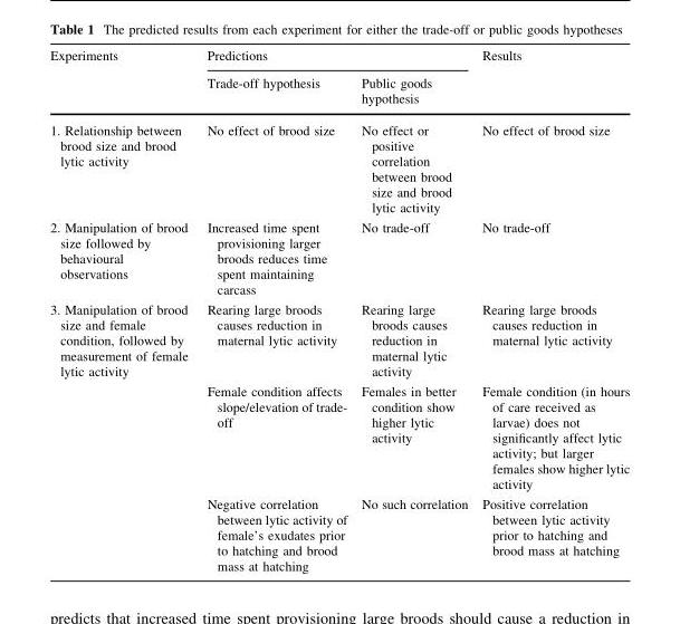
<table><thead><tr><td rowspan="2">Experiments</td><td colspan="2">Predictions</td><td rowspan="2">Results</td></tr><tr><td>Trade-off hypothesis</td><td>Public goods hypothesis</td></tr></thead><tbody><tr><td>1. Relationship between brood size and brood lytic activity</td><td>No effect of brood size</td><td>No effect or positive correlation between brood size and brood lytic activity</td><td>No effect of brood size</td></tr><tr><td>2. Manipulation of brood size followed by behavioural observations</td><td>Increased time spent provisioning larger broods reduces time spent maintaining carcass</td><td>No trade-off</td><td>No trade-off</td></tr><tr><td rowspan="3">3. Manipulation of brood size and female condition, followed by measurement of female lytic activity</td><td>Rearing large broods causes reduction in maternal lytic activity</td><td>Rearing large broods causes reduction in maternal lytic activity</td><td>Rearing large broods causes reduction in maternal lytic activity</td></tr><tr><td>Female condition affects slope/elevation of trade- off</td><td>Females in better condition show higher lytic activity</td><td>Female condition (in hours of care received as larvae) does not significantly affect lytic activity; but larger females show higher lytic activity</td></tr><tr><td>Negative correlation between lytic activity of female’s exudates prior to hatching and brood mass at hatching</td><td>No such correlation</td><td>Positive correlation between lytic activity prior to hatching and brood mass at hatching</td></tr></tbody></table>